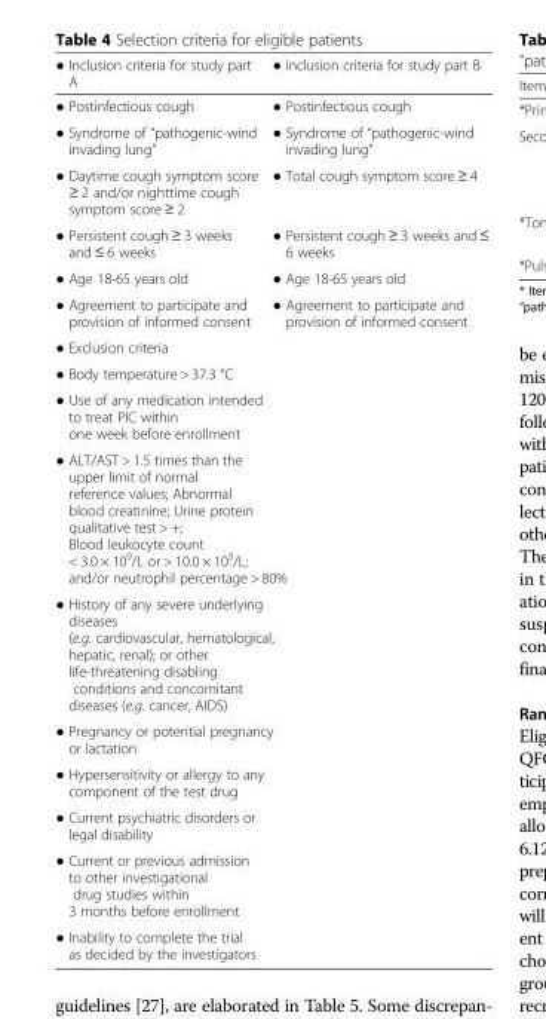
<table><thead><tr><td>● Inclusion criteria for study part A</td><td>● Inclusion criteria for study part B</td></tr></thead><tbody><tr><td>● Postinfectious cough</td><td>● Postinfectious cough</td></tr><tr><td>● Syndrome of “pathogenic-wind invading lung”</td><td>● Syndrome of “pathogenic-wind invading lung”</td></tr><tr><td>● Daytime cough symptom score ≥ 2 and/or nighttime cough symptom score ≥ 2</td><td>● Total cough symptom score ≥ 4</td></tr><tr><td>● Persistent cough ≥ 3 weeks and ≤ 6 weeks</td><td>● Persistent cough ≥ 3 weeks and ≤ 6 weeks</td></tr><tr><td>● Age 18-65 years old</td><td>● Age 18-65 years old</td></tr><tr><td>● Agreement to participate and provision of informed consent</td><td>● Agreement to participate and provision of informed consent</td></tr><tr><td colspan="2">● Exclusion criteria</td></tr><tr><td colspan="2">● Body temperature &gt; 37.3 °C</td></tr><tr><td colspan="2">● Use of any medication intended to treat PIC within one week before enrollment</td></tr><tr><td colspan="2">● ALT/AST &gt; 1.5 times than the upper limit of normal reference values; Abnormal blood creatinine; Urine protein qualitative test &gt; +; Blood leukocyte count &lt; 3.0 × 10<sup>9</sup>/L or &gt; 10.0 × 10<sup>9</sup>/L; and/or neutrophil percentage &gt; 80%</td></tr><tr><td colspan="2">● History of any severe underlying diseases (e.g. cardiovascular, hematological, hepatic, renal); or other life-threatening disabling conditions and concomitant diseases (e.g. cancer, AIDS)</td></tr><tr><td colspan="2">● Pregnancy or potential pregnancy or lactation</td></tr><tr><td colspan="2">● Hypersensitivity or allergy to any component of the test drug</td></tr><tr><td colspan="2">● Current psychiatric disorders or legal disability</td></tr><tr><td colspan="2">● Current or previous admission to other investigational drug studies within 3 months before enrollment</td></tr><tr><td colspan="2">● Inability to complete the trial as decided by the investigators</td></tr></tbody></table>